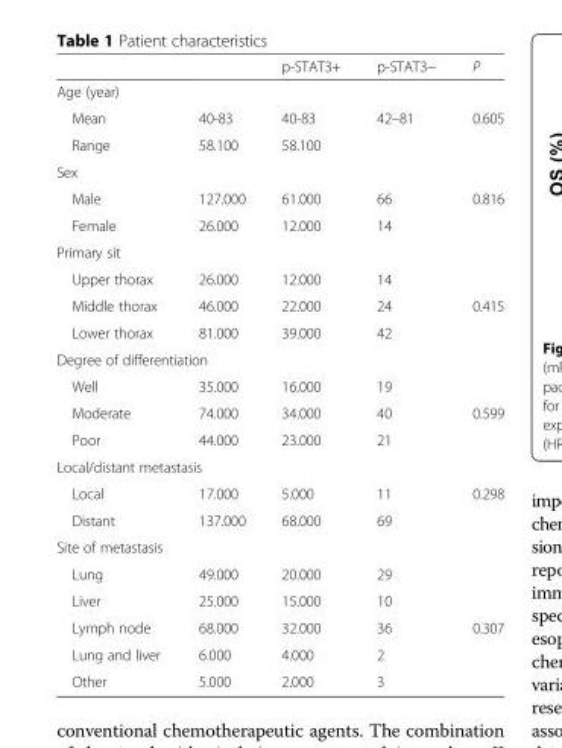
<table><thead><tr><td></td><td></td><td>p-STAT3+</td><td>p-STAT3−</td><td>P</td></tr></thead><tbody><tr><td colspan="5">Age (year)</td></tr><tr><td>Mean</td><td>40-83</td><td>40-83</td><td>42–81</td><td rowspan="2">0.605</td></tr><tr><td>Range</td><td>58.100</td><td>58.100</td><td></td></tr><tr><td colspan="5">Sex</td></tr><tr><td>Male</td><td>127.000</td><td>61.000</td><td>66</td><td rowspan="2">0.816</td></tr><tr><td>Female</td><td>26.000</td><td>12.000</td><td>14</td></tr><tr><td colspan="5">Primary sit</td></tr><tr><td>Upper thorax</td><td>26.000</td><td>12.000</td><td>14</td><td></td></tr><tr><td>Middle thorax</td><td>46.000</td><td>22.000</td><td>24</td><td>0.415</td></tr><tr><td>Lower thorax</td><td>81.000</td><td>39.000</td><td>42</td><td></td></tr><tr><td colspan="5">Degree of differentiation</td></tr><tr><td>Well</td><td>35.000</td><td>16.000</td><td>19</td><td></td></tr><tr><td>Moderate</td><td>74.000</td><td>34.000</td><td>40</td><td>0.599</td></tr><tr><td>Poor</td><td>44.000</td><td>23.000</td><td>21</td><td></td></tr><tr><td colspan="5">Local/distant metastasis</td></tr><tr><td>Local</td><td>17.000</td><td>5.000</td><td>11</td><td rowspan="2">0.298</td></tr><tr><td>Distant</td><td>137.000</td><td>68.000</td><td>69</td></tr><tr><td colspan="5">Site of metastasis</td></tr><tr><td>Lung</td><td>49.000</td><td>20.000</td><td>29</td><td></td></tr><tr><td>Liver</td><td>25.000</td><td>15.000</td><td>10</td><td></td></tr><tr><td>Lymph node</td><td>68.000</td><td>32.000</td><td>36</td><td>0.307</td></tr><tr><td>Lung and liver</td><td>6.000</td><td>4.000</td><td>2</td><td></td></tr><tr><td>Other</td><td>5.000</td><td>2.000</td><td>3</td><td></td></tr></tbody></table>